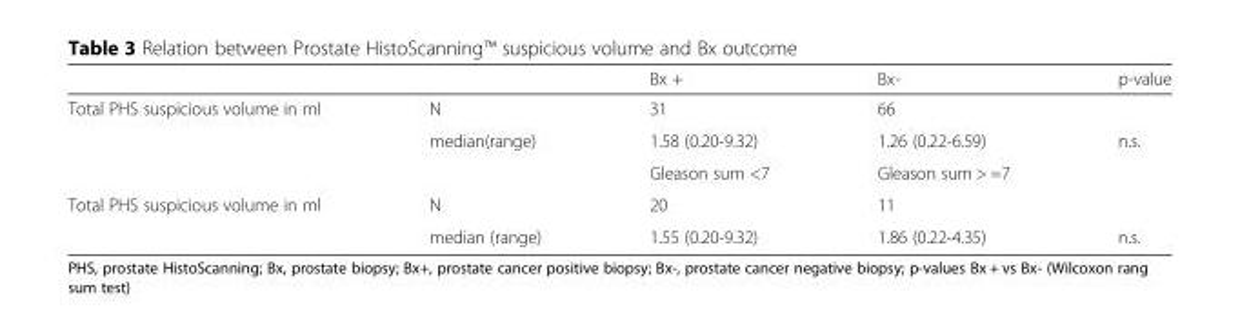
<table><thead><tr><td></td><td></td><td>Bx +</td><td>Bx-</td><td>p-value</td></tr></thead><tbody><tr><td rowspan="3">Total PHS suspicious volume in ml</td><td>N</td><td>31</td><td>66</td><td></td></tr><tr><td>median(range)</td><td>1.58 (0.20-9.32)</td><td>1.26 (0.22-6.59)</td><td>n.s.</td></tr><tr><td></td><td>Gleason sum &lt;7</td><td>Gleason sum &gt; =7</td><td></td></tr><tr><td rowspan="2">Total PHS suspicious volume in ml</td><td>N</td><td>20</td><td>11</td><td></td></tr><tr><td>median (range)</td><td>1.55 (0.20-9.32)</td><td>1.86 (0.22-4.35)</td><td>n.s.</td></tr></tbody></table>